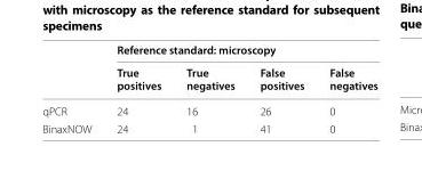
<table><thead><tr><td rowspan="2"></td><td colspan="4">Reference standard: microscopy</td></tr><tr><td>True positives</td><td>True negatives</td><td>False positives</td><td>False negatives</td></tr></thead><tbody><tr><td>qPCR</td><td>24</td><td>16</td><td>26</td><td>0</td></tr><tr><td>BinaxNOW</td><td>24</td><td>1</td><td>41</td><td>0</td></tr></tbody></table>